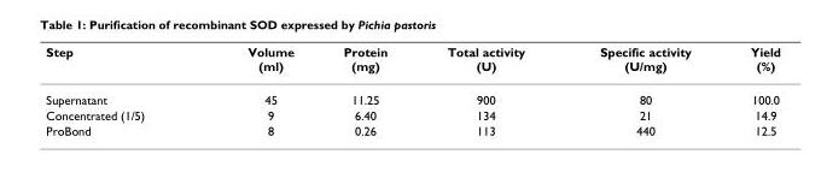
<table><thead><tr><td>Step</td><td>Volume (ml)</td><td>Protein (mg)</td><td>Total activity (U)</td><td>Specific activity (U/mg)</td><td>Yield (%)</td></tr></thead><tbody><tr><td>Supernatant</td><td>45</td><td>11.25</td><td>900</td><td>80</td><td>100.0</td></tr><tr><td>Concentrated (1/5)</td><td>9</td><td>6.40</td><td>134</td><td>21</td><td>14.9</td></tr><tr><td>ProBond</td><td>8</td><td>0.26</td><td>113</td><td>440</td><td>12.5</td></tr></tbody></table>